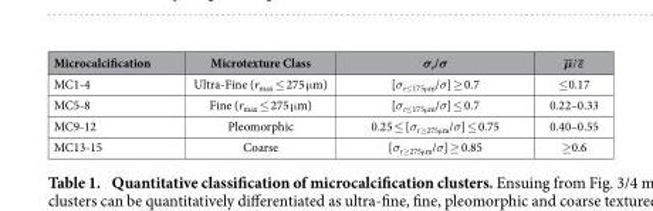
<table><thead><tr><td>Microcalcification</td><td>Microtexture Class</td><td>σ<sub>r</sub>/σ</td><td>µ ε /</td></tr></thead><tbody><tr><td>MC1-4</td><td>Ultra-Fine (r<sub>max</sub> ≤ 275 μ m)</td><td>[σ<sub>r≤175μm</sub>/σ] ≥ 0.7</td><td>≤ 0.17</td></tr><tr><td>MC5-8</td><td>Fine (r<sub>max</sub> ≤ 275 μ m)</td><td>[σ<sub>r≤175μm</sub>/σ] ≤ 0.7</td><td>0.22–0.33</td></tr><tr><td>MC9-12</td><td>Pleomorphic</td><td>0.25 ≤ [σ<sub>r≥275μm</sub>/σ] ≤ 0.75</td><td>0.40–0.55</td></tr><tr><td>MC13-15</td><td>Coarse</td><td>[σ<sub>r≥275μm</sub>/σ] ≥ 0.85</td><td>≥ 0.6</td></tr></tbody></table>